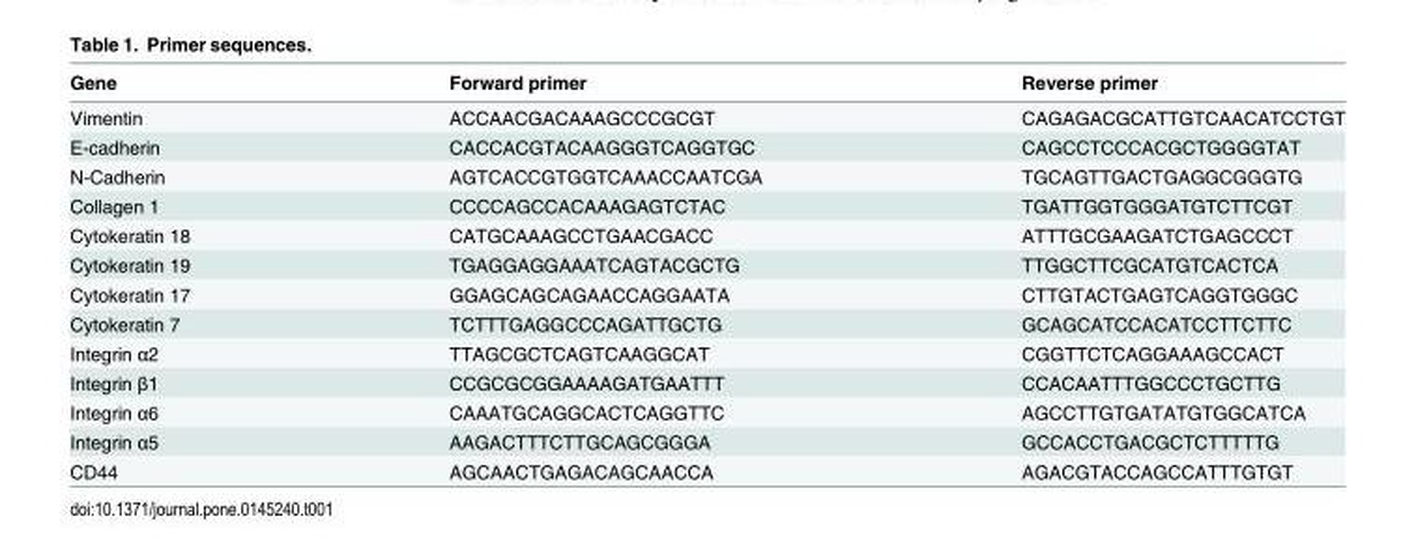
<table><thead><tr><td>Gene</td><td>Forward primer</td><td>Reverse primer</td></tr></thead><tbody><tr><td>Vimentin</td><td>ACCAACGACAAAGCCCGCGT</td><td>CAGAGACGCATTGTCAACATCCTGT</td></tr><tr><td>E-cadherin</td><td>CACCACGTACAAGGGTCAGGTGC</td><td>CAGCCTCCCACGCTGGGGTAT</td></tr><tr><td>N-Cadherin</td><td>AGTCACCGTGGTCAAACCAATCGA</td><td>TGCAGTTGACTGAGGCGGGTG</td></tr><tr><td>Collagen 1</td><td>CCCCAGCCACAAAGAGTCTAC</td><td>TGATTGGTGGGATGTCTTCGT</td></tr><tr><td>Cytokeratin 18</td><td>CATGCAAAGCCTGAACGACC</td><td>ATTTGCGAAGATCTGAGCCCT</td></tr><tr><td>Cytokeratin 19</td><td>TGAGGAGGAAATCAGTACGCTG</td><td>TTGGCTTCGCATGTCACTCA</td></tr><tr><td>Cytokeratin 17</td><td>GGAGCAGCAGAACCAGGAATA</td><td>CTTGTACTGAGTCAGGTGGGC</td></tr><tr><td>Cytokeratin 7</td><td>TCTTTGAGGCCCAGATTGCTG</td><td>GCAGCATCCACATCCTTCTTC</td></tr><tr><td>Integrin α2</td><td>TTAGCGCTCAGTCAAGGCAT</td><td>CGGTTCTCAGGAAAGCCACT</td></tr><tr><td>Integrin β1</td><td>CCGCGCGGAAAAGATGAATTT</td><td>CCACAATTTGGCCCTGCTTG</td></tr><tr><td>Integrin α6</td><td>CAAATGCAGGCACTCAGGTTC</td><td>AGCCTTGTGATATGTGGCATCA</td></tr><tr><td>Integrin α5</td><td>AAGACTTTCTTGCAGCGGGA</td><td>GCCACCTGACGCTCTTTTTG</td></tr><tr><td>CD44</td><td>AGCAACTGAGACAGCAACCA</td><td>AGACGTACCAGCCATTTGTGT</td></tr></tbody></table>